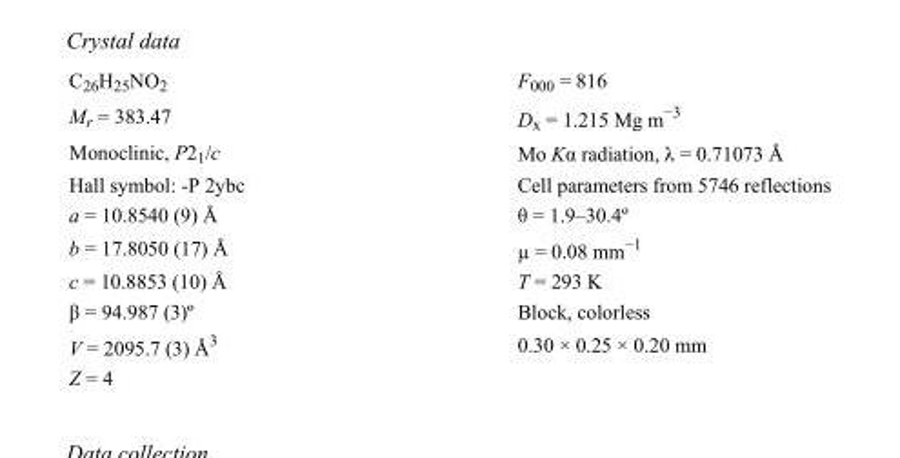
<table><tbody><tr><td>C<sub>26</sub>H<sub>25</sub>NO<sub>2</sub></td><td>F000 = 816</td></tr><tr><td>M<sub>r</sub> = 383.47</td><td>D<sub>x</sub> = 1.215 Mg m<sup>−3</sup></td></tr><tr><td>Monoclinic, P2<sub>1</sub>/c</td><td>Mo Kα radiation, λ = 0.71073 Å</td></tr><tr><td>Hall symbol: -P 2ybc</td><td>Cell parameters from 5746 reflections</td></tr><tr><td>a = 10.8540 (9) Å</td><td>θ = 1.9–30.4º</td></tr><tr><td>b = 17.8050 (17) Å</td><td>µ = 0.08 mm<sup>−1</sup></td></tr><tr><td>c = 10.8853 (10) Å</td><td>T = 293 K</td></tr><tr><td>β = 94.987 (3)º</td><td>Block, colorless</td></tr><tr><td>V = 2095.7 (3) Å<sup>3</sup></td><td>0.30 × 0.25 × 0.20 mm</td></tr><tr><td>Z = 4</td><td></td></tr></tbody></table>